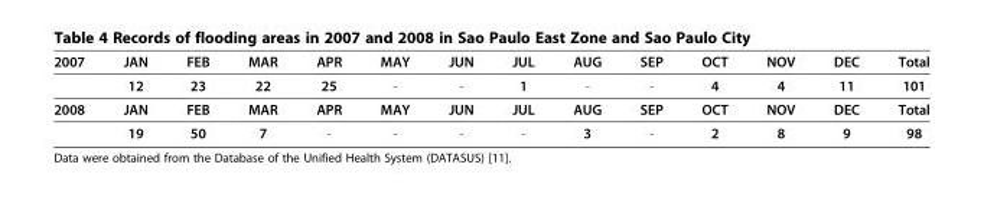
<table><tbody><tr><td rowspan="2">2007</td><td>JAN</td><td>FEB</td><td>MAR</td><td>APR</td><td>MAY</td><td>JUN</td><td>JUL</td><td>AUG</td><td>SEP</td><td>OCT</td><td>NOV</td><td>DEC</td><td>Total</td></tr><tr><td>12</td><td>23</td><td>22</td><td>25</td><td>-</td><td>-</td><td>1</td><td>-</td><td>-</td><td>4</td><td>4</td><td>11</td><td>101</td></tr><tr><td rowspan="2">2008</td><td>JAN</td><td>FEB</td><td>MAR</td><td>APR</td><td>MAY</td><td>JUN</td><td>JUL</td><td>AUG</td><td>SEP</td><td>OCT</td><td>NOV</td><td>DEC</td><td>Total</td></tr><tr><td>19</td><td>50</td><td>7</td><td>-</td><td>-</td><td>-</td><td>-</td><td>3</td><td>-</td><td>2</td><td>8</td><td>9</td><td>98</td></tr></tbody></table>